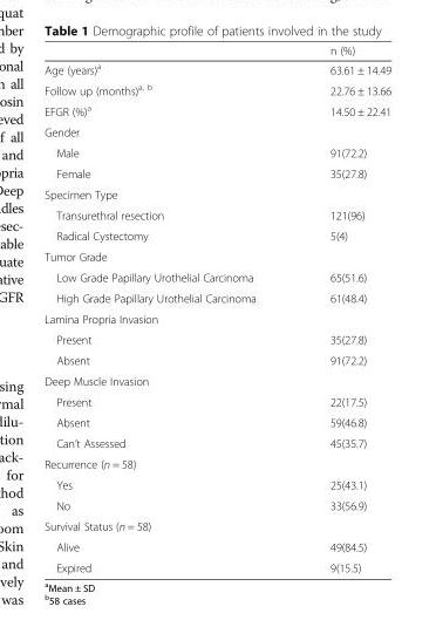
<table><thead><tr><td></td><td>n (%)</td></tr></thead><tbody><tr><td>Age (years)<sup>a</sup></td><td>63.61 ± 14.49</td></tr><tr><td>Follow up (months)<sup>a, b</sup></td><td>22.76 ± 13.66</td></tr><tr><td>EFGR (%)<sup>a</sup></td><td>14.50 ± 22.41</td></tr><tr><td colspan="2">Gender</td></tr><tr><td>Male</td><td>91(72.2)</td></tr><tr><td>Female</td><td>35(27.8)</td></tr><tr><td colspan="2">Specimen Type</td></tr><tr><td>Transurethral resection</td><td>121(96)</td></tr><tr><td>Radical Cystectomy</td><td>5(4)</td></tr><tr><td colspan="2">Tumor Grade</td></tr><tr><td>Low Grade Papillary Urothelial Carcinoma</td><td>65(51.6)</td></tr><tr><td>High Grade Papillary Urothelial Carcinoma</td><td>61(48.4)</td></tr><tr><td colspan="2">Lamina Propria Invasion</td></tr><tr><td>Present</td><td>35(27.8)</td></tr><tr><td>Absent</td><td>91(72.2)</td></tr><tr><td colspan="2">Deep Muscle Invasion</td></tr><tr><td>Present</td><td>22(17.5)</td></tr><tr><td>Absent</td><td>59(46.8)</td></tr><tr><td>Can’t Assessed</td><td>45(35.7)</td></tr><tr><td colspan="2">Recurrence (n = 58)</td></tr><tr><td>Yes</td><td>25(43.1)</td></tr><tr><td>No</td><td>33(56.9)</td></tr><tr><td colspan="2">Survival Status (n = 58)</td></tr><tr><td>Alive</td><td>49(84.5)</td></tr><tr><td>Expired</td><td>9(15.5)</td></tr></tbody></table>